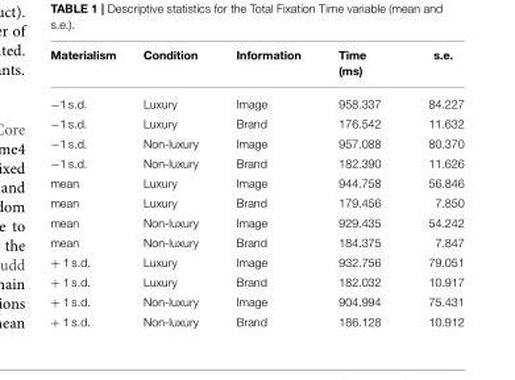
<table><thead><tr><td>Materialism</td><td>Condition</td><td>Information</td><td>Time (ms)</td><td>s.e.</td></tr></thead><tbody><tr><td>−1 s.d.</td><td>Luxury</td><td>Image</td><td>958.337</td><td>84.227</td></tr><tr><td>−1 s.d.</td><td>Luxury</td><td>Brand</td><td>176.542</td><td>11.632</td></tr><tr><td>−1 s.d.</td><td>Non-luxury</td><td>Image</td><td>957.088</td><td>80.370</td></tr><tr><td>−1 s.d.</td><td>Non-luxury</td><td>Brand</td><td>182.390</td><td>11.626</td></tr><tr><td>mean</td><td>Luxury</td><td>Image</td><td>944.758</td><td>56.846</td></tr><tr><td>mean</td><td>Luxury</td><td>Brand</td><td>179.456</td><td>7.850</td></tr><tr><td>mean</td><td>Non-luxury</td><td>Image</td><td>929.435</td><td>54.242</td></tr><tr><td>mean</td><td>Non-luxury</td><td>Brand</td><td>184.375</td><td>7.847</td></tr><tr><td>+ 1 s.d.</td><td>Luxury</td><td>Image</td><td>932.756</td><td>79.051</td></tr><tr><td>+ 1 s.d.</td><td>Luxury</td><td>Brand</td><td>182.032</td><td>10.917</td></tr><tr><td>+ 1 s.d.</td><td>Non-luxury</td><td>Image</td><td>904.994</td><td>75.431</td></tr><tr><td>+ 1 s.d.</td><td>Non-luxury</td><td>Brand</td><td>186.128</td><td>10.912</td></tr></tbody></table>